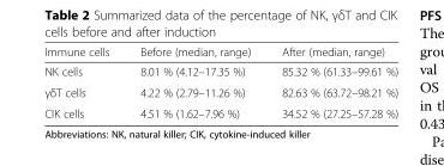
<table><thead><tr><td>Immune cells</td><td>Before (median, range)</td><td>After (median, range)</td></tr></thead><tbody><tr><td>NK cells</td><td>8.01 % (4.12–17.35 %)</td><td>85.32 % (61.33–99.61 %)</td></tr><tr><td>γδT cells</td><td>4.22 % (2.79–11.26 %)</td><td>82.63 % (63.72–98.21 %)</td></tr><tr><td>CIK cells</td><td>4.51 % (1.62–7.96 %)</td><td>34.52 % (27.25–57.28 %)</td></tr></tbody></table>